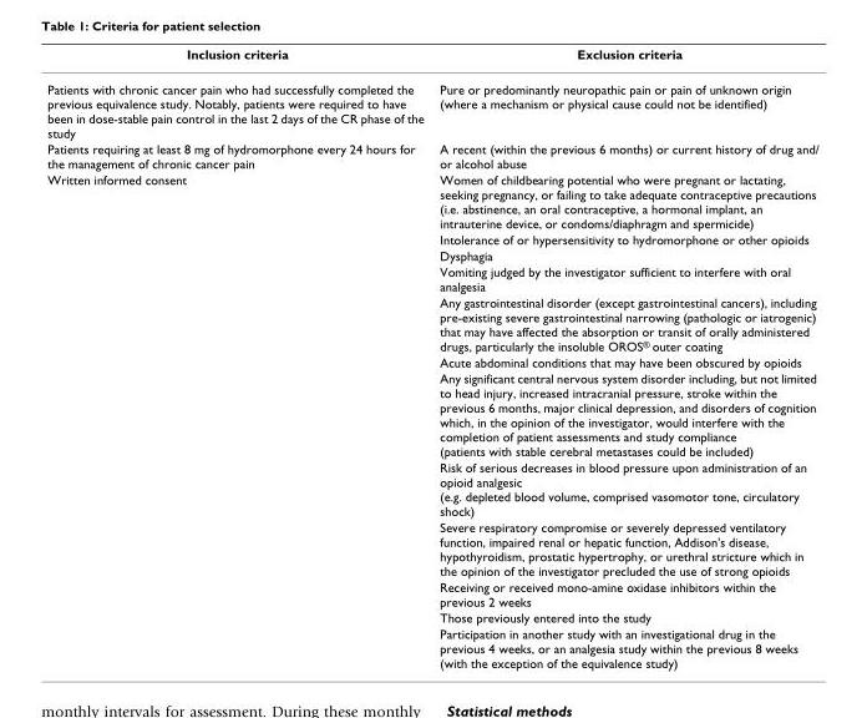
<table><thead><tr><td>Inclusion criteria</td><td>Exclusion criteria</td></tr></thead><tbody><tr><td>Patients with chronic cancer pain who had successfully completed the previous equivalence study. Notably, patients were required to have been in dose-stable pain control in the last 2 days of the CR phase of the study</td><td>Pure or predominantly neuropathic pain or pain of unknown origin (where a mechanism or physical cause could not be identified)</td></tr><tr><td>Patients requiring at least 8 mg of hydromorphone every 24 hours for the management of chronic cancer pain</td><td>A recent (within the previous 6 months) or current history of drug and/ or alcohol abuse</td></tr><tr><td rowspan="12">Written informed consent</td><td>Women of childbearing potential who were pregnant or lactating, seeking pregnancy, or failing to take adequate contraceptive precautions (i.e. abstinence, an oral contraceptive, a hormonal implant, an intrauterine device, or condoms/diaphragm and spermicide)</td></tr><tr><td>Intolerance of or hypersensitivity to hydromorphone or other opioids</td></tr><tr><td>Dysphagia</td></tr><tr><td>Vomiting judged by the investigator sufficient to interfere with oral analgesia</td></tr><tr><td>Any gastrointestinal disorder (except gastrointestinal cancers), including pre-existing severe gastrointestinal narrowing (pathologic or iatrogenic) that may have affected the absorption or transit of orally administered drugs, particularly the insoluble OROS<sup>®</sup> outer coating</td></tr><tr><td>Acute abdominal conditions that may have been obscured by opioids</td></tr><tr><td>Any significant central nervous system disorder including, but not limited to head injury, increased intracranial pressure, stroke within the previous 6 months, major clinical depression, and disorders of cognition which, in the opinion of the investigator, would interfere with the completion of patient assessments and study compliance (patients with stable cerebral metastases could be included)</td></tr><tr><td>Risk of serious decreases in blood pressure upon administration of an opioid analgesic (e.g. depleted blood volume, comprised vasomotor tone, circulatory shock)</td></tr><tr><td>Severe respiratory compromise or severely depressed ventilatory function, impaired renal or hepatic function, Addison&#x27;s disease, hypothyroidism, prostatic hypertrophy, or urethral stricture which in the opinion of the investigator precluded the use of strong opioids</td></tr><tr><td>Receiving or received mono-amine oxidase inhibitors within the previous 2 weeks</td></tr><tr><td>Those previously entered into the study</td></tr><tr><td>Participation in another study with an investigational drug in the previous 4 weeks, or an analgesia study within the previous 8 weeks (with the exception of the equivalence study)</td></tr></tbody></table>